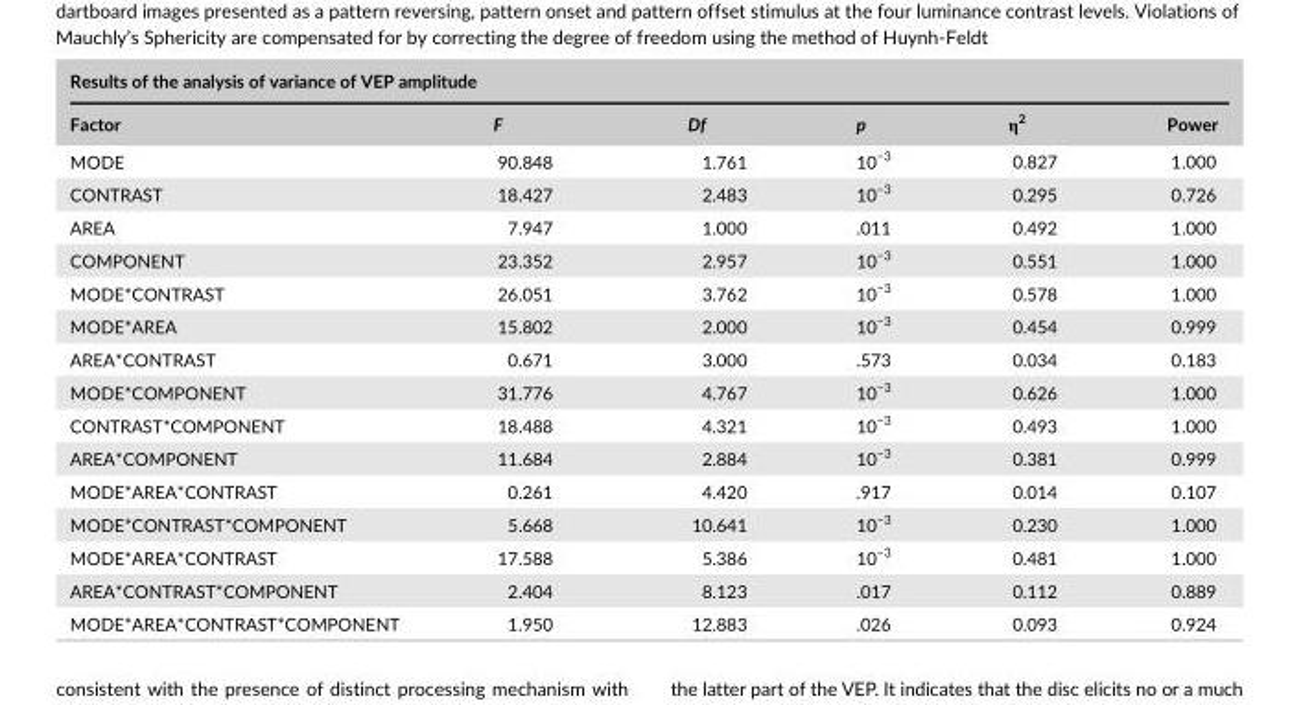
<table><thead><tr><td colspan="6">Results of the analysis of variance of VEP amplitude</td></tr><tr><td>Factor</td><td>F</td><td>Df</td><td>p</td><td>η<sup>2</sup></td><td>Power</td></tr></thead><tbody><tr><td>MODE</td><td>90.848</td><td>1.761</td><td>10<sup>−3</sup></td><td>0.827</td><td>1.000</td></tr><tr><td>CONTRAST</td><td>18.427</td><td>2.483</td><td>10<sup>−3</sup></td><td>0.295</td><td>0.726</td></tr><tr><td>AREA</td><td>7.947</td><td>1.000</td><td>.011</td><td>0.492</td><td>1.000</td></tr><tr><td>COMPONENT</td><td>23.352</td><td>2.957</td><td>10<sup>−3</sup></td><td>0.551</td><td>1.000</td></tr><tr><td>MODE*CONTRAST</td><td>26.051</td><td>3.762</td><td>10<sup>−3</sup></td><td>0.578</td><td>1.000</td></tr><tr><td>MODE*AREA</td><td>15.802</td><td>2.000</td><td>10<sup>−3</sup></td><td>0.454</td><td>0.999</td></tr><tr><td>AREA*CONTRAST</td><td>0.671</td><td>3.000</td><td>.573</td><td>0.034</td><td>0.183</td></tr><tr><td>MODE*COMPONENT</td><td>31.776</td><td>4.767</td><td>10<sup>−3</sup></td><td>0.626</td><td>1.000</td></tr><tr><td>CONTRAST*COMPONENT</td><td>18.488</td><td>4.321</td><td>10<sup>−3</sup></td><td>0.493</td><td>1.000</td></tr><tr><td>AREA*COMPONENT</td><td>11.684</td><td>2.884</td><td>10<sup>−3</sup></td><td>0.381</td><td>0.999</td></tr><tr><td>MODE*AREA*CONTRAST</td><td>0.261</td><td>4.420</td><td>.917</td><td>0.014</td><td>0.107</td></tr><tr><td>MODE*CONTRAST*COMPONENT</td><td>5.668</td><td>10.641</td><td>10<sup>−3</sup></td><td>0.230</td><td>1.000</td></tr><tr><td>MODE*AREA*CONTRAST</td><td>17.588</td><td>5.386</td><td>10<sup>−3</sup></td><td>0.481</td><td>1.000</td></tr><tr><td>AREA*CONTRAST*COMPONENT</td><td>2.404</td><td>8.123</td><td>.017</td><td>0.112</td><td>0.889</td></tr><tr><td>MODE*AREA*CONTRAST*COMPONENT</td><td>1.950</td><td>12.883</td><td>.026</td><td>0.093</td><td>0.924</td></tr></tbody></table>